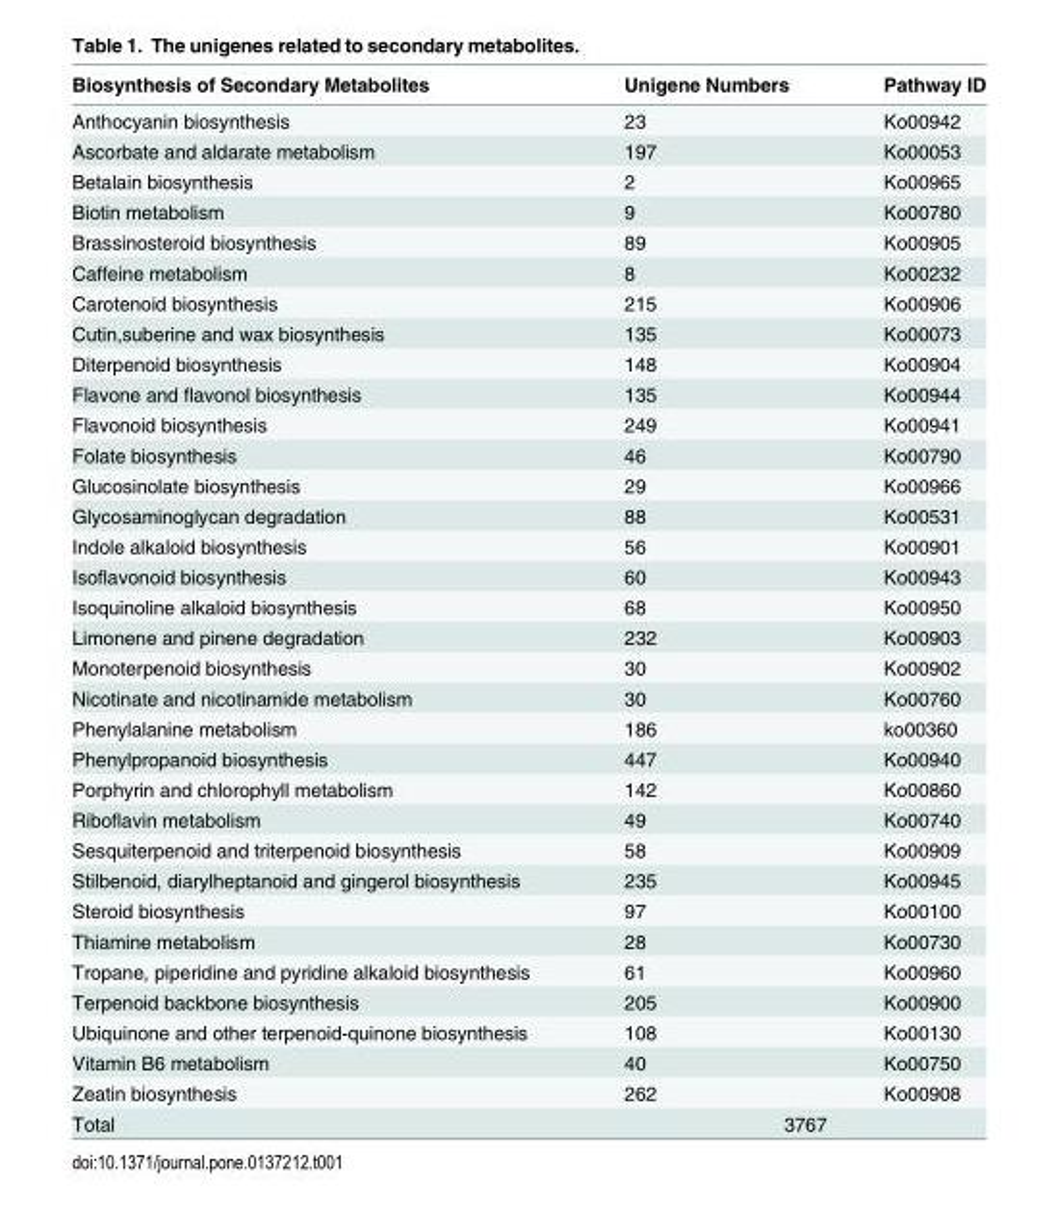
<table><thead><tr><td>Biosynthesis of Secondary Metabolites</td><td>Unigene Numbers</td><td>Pathway ID</td></tr></thead><tbody><tr><td>Anthocyanin biosynthesis</td><td>23</td><td>Ko00942</td></tr><tr><td>Ascorbate and aldarate metabolism</td><td>197</td><td>Ko00053</td></tr><tr><td>Betalain biosynthesis</td><td>2</td><td>Ko00965</td></tr><tr><td>Biotin metabolism</td><td>9</td><td>Ko00780</td></tr><tr><td>Brassinosteroid biosynthesis</td><td>89</td><td>Ko00905</td></tr><tr><td>Caffeine metabolism</td><td>8</td><td>Ko00232</td></tr><tr><td>Carotenoid biosynthesis</td><td>215</td><td>Ko00906</td></tr><tr><td>Cutin,suberine and wax biosynthesis</td><td>135</td><td>Ko00073</td></tr><tr><td>Diterpenoid biosynthesis</td><td>148</td><td>Ko00904</td></tr><tr><td>Flavone and flavonol biosynthesis</td><td>135</td><td>Ko00944</td></tr><tr><td>Flavonoid biosynthesis</td><td>249</td><td>Ko00941</td></tr><tr><td>Folate biosynthesis</td><td>46</td><td>Ko00790</td></tr><tr><td>Glucosinolate biosynthesis</td><td>29</td><td>Ko00966</td></tr><tr><td>Glycosaminoglycan degradation</td><td>88</td><td>Ko00531</td></tr><tr><td>Indole alkaloid biosynthesis</td><td>56</td><td>Ko00901</td></tr><tr><td>Isoflavonoid biosynthesis</td><td>60</td><td>Ko00943</td></tr><tr><td>Isoquinoline alkaloid biosynthesis</td><td>68</td><td>Ko00950</td></tr><tr><td>Limonene and pinene degradation</td><td>232</td><td>Ko00903</td></tr><tr><td>Monoterpenoid biosynthesis</td><td>30</td><td>Ko00902</td></tr><tr><td>Nicotinate and nicotinamide metabolism</td><td>30</td><td>Ko00760</td></tr><tr><td>Phenylalanine metabolism</td><td>186</td><td>ko00360</td></tr><tr><td>Phenylpropanoid biosynthesis</td><td>447</td><td>Ko00940</td></tr><tr><td>Porphyrin and chlorophyll metabolism</td><td>142</td><td>Ko00860</td></tr><tr><td>Riboflavin metabolism</td><td>49</td><td>Ko00740</td></tr><tr><td>Sesquiterpenoid and triterpenoid biosynthesis</td><td>58</td><td>Ko00909</td></tr><tr><td>Stilbenoid, diarylheptanoid and gingerol biosynthesis</td><td>235</td><td>Ko00945</td></tr><tr><td>Steroid biosynthesis</td><td>97</td><td>Ko00100</td></tr><tr><td>Thiamine metabolism</td><td>28</td><td>Ko00730</td></tr><tr><td>Tropane, piperidine and pyridine alkaloid biosynthesis</td><td>61</td><td>Ko00960</td></tr><tr><td>Terpenoid backbone biosynthesis</td><td>205</td><td>Ko00900</td></tr><tr><td>Ubiquinone and other terpenoid-quinone biosynthesis</td><td>108</td><td>Ko00130</td></tr><tr><td>Vitamin B6 metabolism</td><td>40</td><td>Ko00750</td></tr><tr><td>Zeatin biosynthesis</td><td>262</td><td>Ko00908</td></tr><tr><td>Total</td><td colspan="2">3767</td></tr></tbody></table>